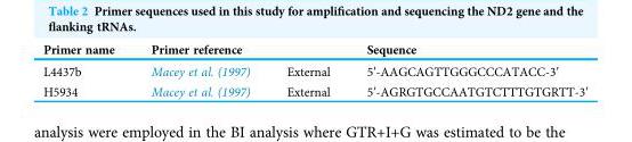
<table><thead><tr><td rowspan="2">Primer name L4437b</td><td colspan="2">Primer reference</td><td rowspan="2">Sequence 5′-AAGCAGTTGGGCCCATACC-3′</td></tr><tr><td>Macey et al. (1997)</td><td>External</td></tr></thead><tbody><tr><td>H5934</td><td>Macey et al. (1997)</td><td>External</td><td>5′-AGRGTGCCAATGTCTTTGTGRTT-3′</td></tr></tbody></table>